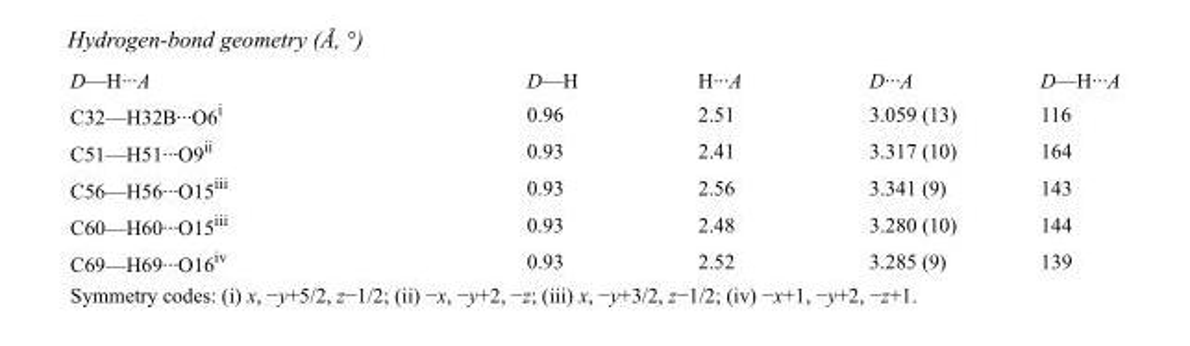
<table><tbody><tr><td>D—H···A</td><td>D—H</td><td>H···A</td><td>D···A</td><td>D—H···A</td></tr><tr><td>C32—H32B···O6<sup>i</sup></td><td>0.96</td><td>2.51</td><td>3.059 (13)</td><td>116</td></tr><tr><td>C51—H51···O9<sup>ii</sup></td><td>0.93</td><td>2.41</td><td>3.317 (10)</td><td>164</td></tr><tr><td>C56—H56···O15<sup>iii</sup></td><td>0.93</td><td>2.56</td><td>3.341 (9)</td><td>143</td></tr><tr><td>C60—H60···O15<sup>iii</sup></td><td>0.93</td><td>2.48</td><td>3.280 (10)</td><td>144</td></tr><tr><td>C69—H69···O16<sup>iv</sup></td><td>0.93</td><td>2.52</td><td>3.285 (9)</td><td>139</td></tr></tbody></table>